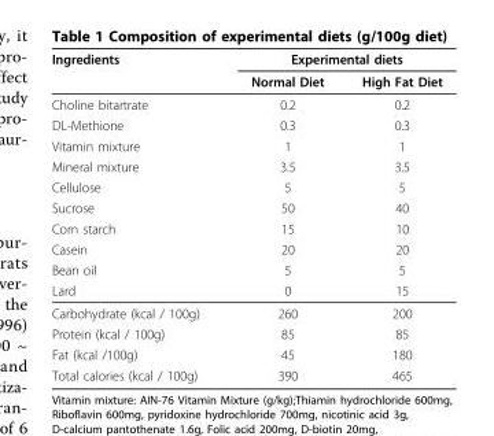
<table><thead><tr><td rowspan="2">Ingredients</td><td colspan="2">Experimental diets</td></tr><tr><td>Normal Diet</td><td>High Fat Diet</td></tr></thead><tbody><tr><td>Choline bitartrate</td><td>0.2</td><td>0.2</td></tr><tr><td>DL-Methione</td><td>0.3</td><td>0.3</td></tr><tr><td>Vitamin mixture</td><td>1</td><td>1</td></tr><tr><td>Mineral mixture</td><td>3.5</td><td>3.5</td></tr><tr><td>Cellulose</td><td>5</td><td>5</td></tr><tr><td>Sucrose</td><td>50</td><td>40</td></tr><tr><td>Corn starch</td><td>15</td><td>10</td></tr><tr><td>Casein</td><td>20</td><td>20</td></tr><tr><td>Bean oil</td><td>5</td><td>5</td></tr><tr><td>Lard</td><td>0</td><td>15</td></tr><tr><td>Carbohydrate (kcal / 100g)</td><td>260</td><td>200</td></tr><tr><td>Protein (kcal / 100g)</td><td>85</td><td>85</td></tr><tr><td>Fat (kcal /100g)</td><td>45</td><td>180</td></tr><tr><td>Total calories (kcal / 100g)</td><td>390</td><td>465</td></tr></tbody></table>